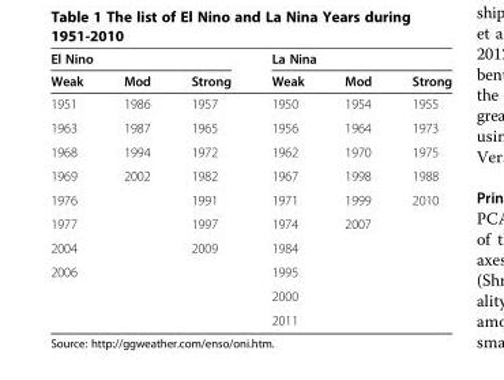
<table><thead><tr><td colspan="3">El Nino</td><td colspan="3">La Nina</td></tr><tr><td>Weak</td><td>Mod</td><td>Strong</td><td>Weak</td><td>Mod</td><td>Strong</td></tr></thead><tbody><tr><td>1951</td><td>1986</td><td>1957</td><td>1950</td><td>1954</td><td>1955</td></tr><tr><td>1963</td><td>1987</td><td>1965</td><td>1956</td><td>1964</td><td>1973</td></tr><tr><td>1968</td><td>1994</td><td>1972</td><td>1962</td><td>1970</td><td>1975</td></tr><tr><td>1969</td><td>2002</td><td>1982</td><td>1967</td><td>1998</td><td>1988</td></tr><tr><td>1976</td><td></td><td>1991</td><td>1971</td><td>1999</td><td>2010</td></tr><tr><td>1977</td><td></td><td>1997</td><td>1974</td><td>2007</td><td></td></tr><tr><td>2004</td><td></td><td>2009</td><td>1984</td><td></td><td></td></tr><tr><td rowspan="3">2006</td><td></td><td></td><td>1995</td><td></td><td></td></tr><tr><td></td><td></td><td>2000</td><td></td><td></td></tr><tr><td></td><td></td><td>2011</td><td></td><td></td></tr></tbody></table>